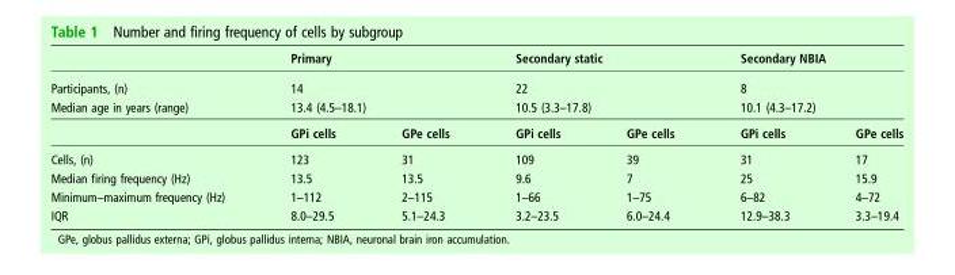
<table><thead><tr><td rowspan="4">Participants, (n) Median age in years (range)</td><td rowspan="3" colspan="2">Primary 14 13.4 (4.5–18.1)</td><td rowspan="3" colspan="2">Secondary static 22 10.5 (3.3–17.8)</td><td rowspan="3" colspan="2">Secondary NBIA 8 10.1 (4.3–17.2)</td></tr><tr></tr><tr></tr><tr><td>GPi cells</td><td>GPe cells</td><td>GPi cells</td><td>GPe cells</td><td>GPi cells</td><td>GPe cells</td></tr></thead><tbody><tr><td>Cells, (n)</td><td>123</td><td>31</td><td>109</td><td>39</td><td>31</td><td>17</td></tr><tr><td>Median firing frequency (Hz)</td><td>13.5</td><td>13.5</td><td>9.6</td><td>7</td><td>25</td><td>15.9</td></tr><tr><td>Minimum–maximum frequency (Hz)</td><td>1–112</td><td>2–115</td><td>1–66</td><td>1–75</td><td>6–82</td><td>4–72</td></tr><tr><td>IQR</td><td>8.0–29.5</td><td>5.1–24.3</td><td>3.2–23.5</td><td>6.0–24.4</td><td>12.9–38.3</td><td>3.3–19.4</td></tr></tbody></table>